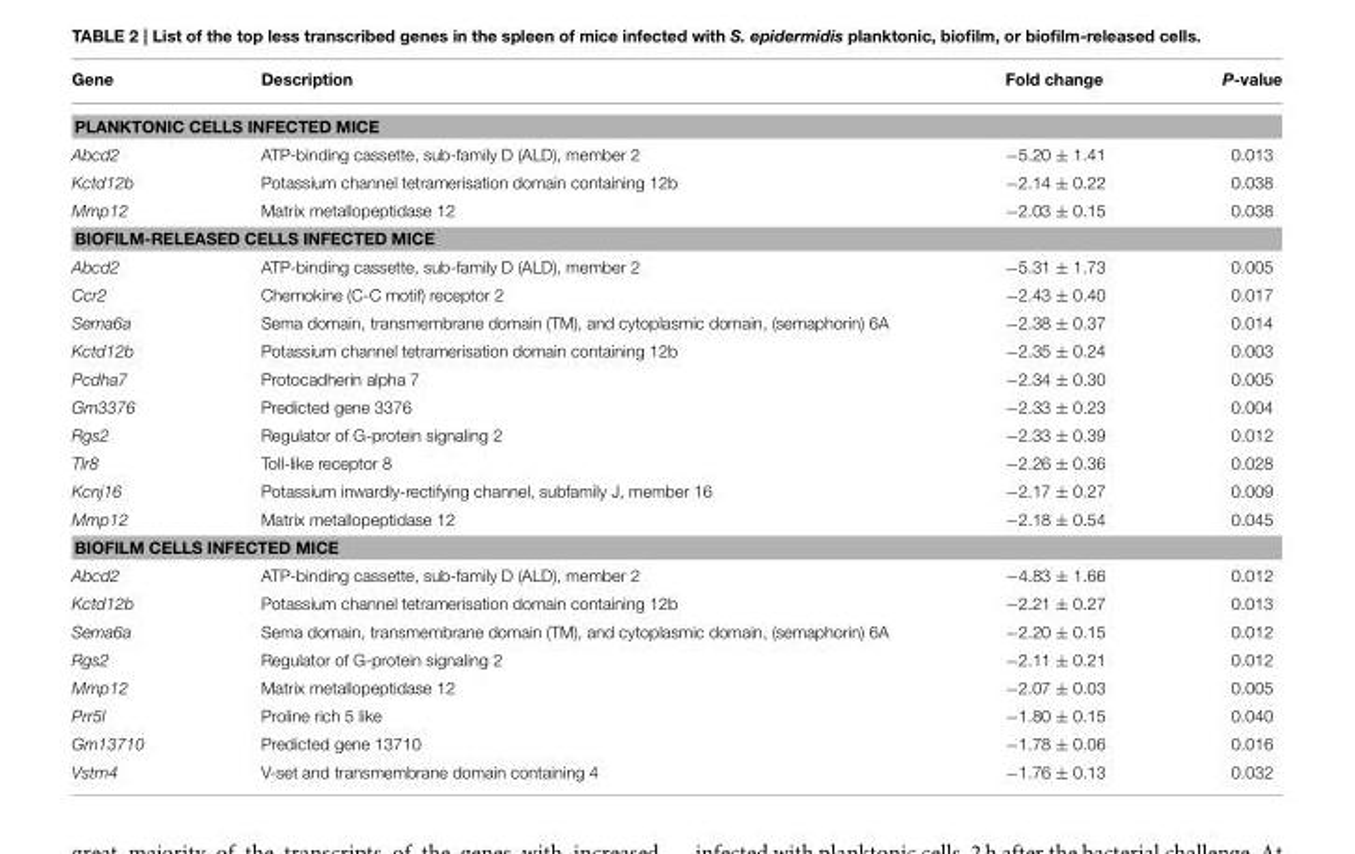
<table><thead><tr><td>Gene</td><td>Description</td><td>Fold change</td><td>P-value</td></tr></thead><tbody><tr><td colspan="4">PLANKTONIC CELLS INFECTED MICE</td></tr><tr><td>Abcd2</td><td>ATP-binding cassette, sub-family D (ALD), member 2</td><td>−5.20 ± 1.41</td><td>0.013</td></tr><tr><td>Kctd12b</td><td>Potassium channel tetramerisation domain containing 12b</td><td>−2.14 ± 0.22</td><td>0.038</td></tr><tr><td>Mmp12</td><td>Matrix metallopeptidase 12</td><td>−2.03 ± 0.15</td><td>0.038</td></tr><tr><td colspan="4">BIOFILM-RELEASED CELLS INFECTED MICE</td></tr><tr><td>Abcd2</td><td>ATP-binding cassette, sub-family D (ALD), member 2</td><td>−5.31 ± 1.73</td><td>0.005</td></tr><tr><td>Ccr2</td><td>Chemokine (C-C motif) receptor 2</td><td>−2.43 ± 0.40</td><td>0.017</td></tr><tr><td>Sema6a</td><td>Sema domain, transmembrane domain (TM), and cytoplasmic domain, (semaphorin) 6A</td><td>−2.38 ± 0.37</td><td>0.014</td></tr><tr><td>Kctd12b</td><td>Potassium channel tetramerisation domain containing 12b</td><td>−2.35 ± 0.24</td><td>0.003</td></tr><tr><td>Pcdha7</td><td>Protocadherin alpha 7</td><td>−2.34 ± 0.30</td><td>0.005</td></tr><tr><td>Gm3376</td><td>Predicted gene 3376</td><td>−2.33 ± 0.23</td><td>0.004</td></tr><tr><td>Rgs2</td><td>Regulator of G-protein signaling 2</td><td>−2.33 ± 0.39</td><td>0.012</td></tr><tr><td>Tlr8</td><td>Toll-like receptor 8</td><td>−2.26 ± 0.36</td><td>0.028</td></tr><tr><td>Kcnj16</td><td>Potassium inwardly-rectifying channel, subfamily J, member 16</td><td>−2.17 ± 0.27</td><td>0.009</td></tr><tr><td>Mmp12</td><td>Matrix metallopeptidase 12</td><td>−2.18 ± 0.54</td><td>0.045</td></tr><tr><td colspan="4">BIOFILM CELLS INFECTED MICE</td></tr><tr><td>Abcd2</td><td>ATP-binding cassette, sub-family D (ALD), member 2</td><td>−4.83 ± 1.66</td><td>0.012</td></tr><tr><td>Kctd12b</td><td>Potassium channel tetramerisation domain containing 12b</td><td>−2.21 ± 0.27</td><td>0.013</td></tr><tr><td>Sema6a</td><td>Sema domain, transmembrane domain (TM), and cytoplasmic domain, (semaphorin) 6A</td><td>−2.20 ± 0.15</td><td>0.012</td></tr><tr><td>Rgs2</td><td>Regulator of G-protein signaling 2</td><td>−2.11 ± 0.21</td><td>0.012</td></tr><tr><td>Mmp12</td><td>Matrix metallopeptidase 12</td><td>−2.07 ± 0.03</td><td>0.005</td></tr><tr><td>Prr5l</td><td>Proline rich 5 like</td><td>−1.80 ± 0.15</td><td>0.040</td></tr><tr><td>Gm13710</td><td>Predicted gene 13710</td><td>−1.78 ± 0.06</td><td>0.016</td></tr><tr><td>Vstm4</td><td>V-set and transmembrane domain containing 4</td><td>−1.76 ± 0.13</td><td>0.032</td></tr></tbody></table>